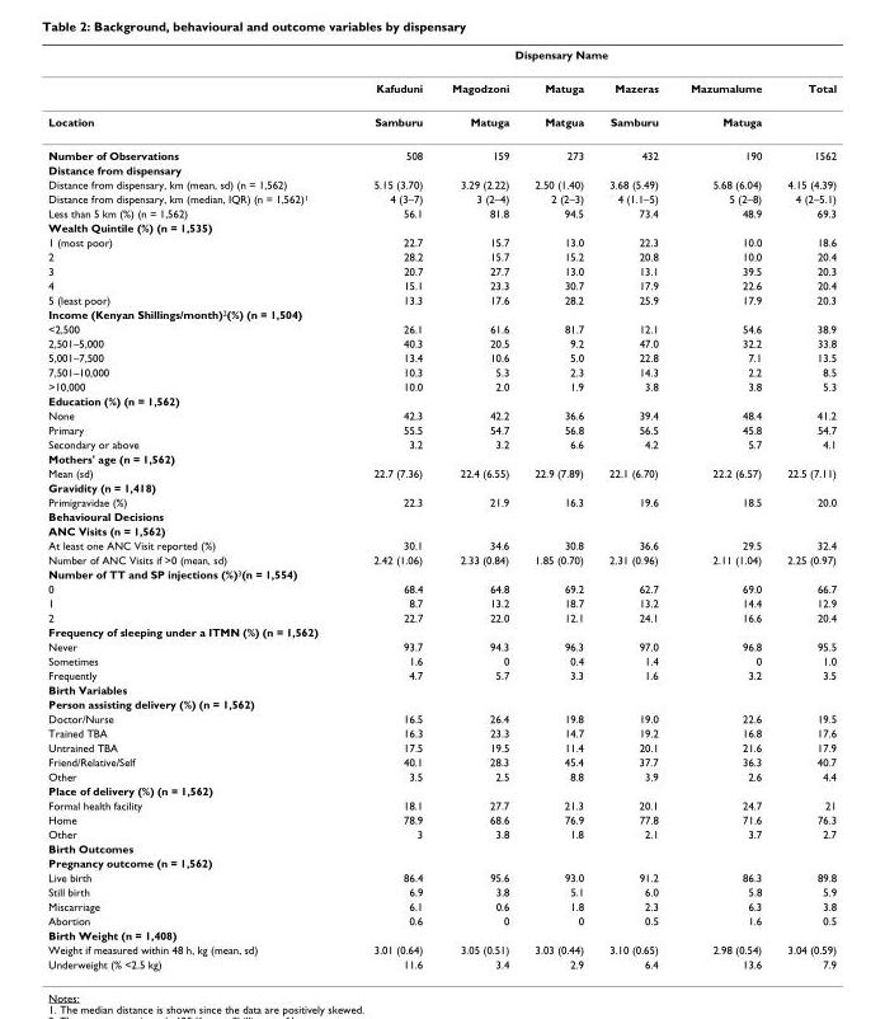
<table><thead><tr><td rowspan="2"></td><td colspan="5">Dispensary Name</td><td rowspan="2">Total</td></tr><tr><td>Kafuduni</td><td>Magodzoni</td><td>Matuga</td><td>Mazeras</td><td>Mazumalume</td></tr></thead><tbody><tr><td>Location</td><td>Samburu</td><td>Matuga</td><td>Matgua</td><td>Samburu</td><td>Matuga</td><td></td></tr><tr><td>Number of Observations</td><td>508</td><td>159</td><td>273</td><td>432</td><td>190</td><td>1562</td></tr><tr><td colspan="7">Distance from dispensary</td></tr><tr><td>Distance from dispensary, km (mean, sd) (n = 1,562)</td><td>5.15 (3.70)</td><td>3.29 (2.22)</td><td>2.50 (1.40)</td><td>3.68 (5.49)</td><td>5.68 (6.04)</td><td>4.15 (4.39)</td></tr><tr><td>Distance from dispensary, km (median, IQR) (n = 1,562)<sup>1</sup></td><td>4 (3–7)</td><td>3 (2–4)</td><td>2 (2–3)</td><td>4 (1.1–5)</td><td>5 (2–8)</td><td>4 (2–5.1)</td></tr><tr><td>Less than 5 km (%) (n = 1,562)</td><td>56.1</td><td>81.8</td><td>94.5</td><td>73.4</td><td>48.9</td><td>69.3</td></tr><tr><td colspan="7">Wealth Quintile (%) (n = 1,535)</td></tr><tr><td>1 (most poor)</td><td>22.7</td><td>15.7</td><td>13.0</td><td>22.3</td><td>10.0</td><td>18.6</td></tr><tr><td>2</td><td>28.2</td><td>15.7</td><td>15.2</td><td>20.8</td><td>10.0</td><td>20.4</td></tr><tr><td>3</td><td>20.7</td><td>27.7</td><td>13.0</td><td>13.1</td><td>39.5</td><td>20.3</td></tr><tr><td>4</td><td>15.1</td><td>23.3</td><td>30.7</td><td>17.9</td><td>22.6</td><td>20.4</td></tr><tr><td>5 (least poor)</td><td>13.3</td><td>17.6</td><td>28.2</td><td>25.9</td><td>17.9</td><td>20.3</td></tr><tr><td colspan="7">Income (Kenyan Shillings/month)<sup>2</sup>(%) (n = 1,504)</td></tr><tr><td>&lt;2,500</td><td>26.1</td><td>61.6</td><td>81.7</td><td>12.1</td><td>54.6</td><td>38.9</td></tr><tr><td>2,501–5,000</td><td>40.3</td><td>20.5</td><td>9.2</td><td>47.0</td><td>32.2</td><td>33.8</td></tr><tr><td>5,001–7,500</td><td>13.4</td><td>10.6</td><td>5.0</td><td>22.8</td><td>7.1</td><td>13.5</td></tr><tr><td>7,501–10,000</td><td>10.3</td><td>5.3</td><td>2.3</td><td>14.3</td><td>2.2</td><td>8.5</td></tr><tr><td>&gt;10,000</td><td>10.0</td><td>2.0</td><td>1.9</td><td>3.8</td><td>3.8</td><td>5.3</td></tr><tr><td colspan="7">Education (%) (n = 1,562)</td></tr><tr><td>None</td><td>42.3</td><td>42.2</td><td>36.6</td><td>39.4</td><td>48.4</td><td>41.2</td></tr><tr><td>Primary</td><td>55.5</td><td>54.7</td><td>56.8</td><td>56.5</td><td>45.8</td><td>54.7</td></tr><tr><td>Secondary or above</td><td>3.2</td><td>3.2</td><td>6.6</td><td>4.2</td><td>5.7</td><td>4.1</td></tr><tr><td colspan="7">Mothers&#x27; age (n = 1,562)</td></tr><tr><td>Mean (sd)</td><td>22.7 (7.36)</td><td>22.4 (6.55)</td><td>22.9 (7.89)</td><td>22.1 (6.70)</td><td>22.2 (6.57)</td><td>22.5 (7.11)</td></tr><tr><td colspan="7">Gravidity (n = 1,418)</td></tr><tr><td>Primigravidae (%)</td><td>22.3</td><td>21.9</td><td>16.3</td><td>19.6</td><td>18.5</td><td>20.0</td></tr><tr><td colspan="7">Behavioural Decisions</td></tr><tr><td colspan="7">ANC Visits (n = 1,562)</td></tr><tr><td>At least one ANC Visit reported (%)</td><td>30.1</td><td>34.6</td><td>30.8</td><td>36.6</td><td>29.5</td><td>32.4</td></tr><tr><td>Number of ANC Visits if &gt;0 (mean, sd)</td><td>2.42 (1.06)</td><td>2.33 (0.84)</td><td>1.85 (0.70)</td><td>2.31 (0.96)</td><td>2.11 (1.04)</td><td>2.25 (0.97)</td></tr><tr><td colspan="7">Number of TT and SP injections (%)<sup>3</sup>(n = 1,554)</td></tr><tr><td>0</td><td>68.4</td><td>64.8</td><td>69.2</td><td>62.7</td><td>69.0</td><td>66.7</td></tr><tr><td>1</td><td>8.7</td><td>13.2</td><td>18.7</td><td>13.2</td><td>14.4</td><td>12.9</td></tr><tr><td>2</td><td>22.7</td><td>22.0</td><td>12.1</td><td>24.1</td><td>16.6</td><td>20.4</td></tr><tr><td colspan="7">Frequency of sleeping under a ITMN (%) (n = 1,562)</td></tr><tr><td>Never</td><td>93.7</td><td>94.3</td><td>96.3</td><td>97.0</td><td>96.8</td><td>95.5</td></tr><tr><td>Sometimes</td><td>1.6</td><td>0</td><td>0.4</td><td>1.4</td><td>0</td><td>1.0</td></tr><tr><td>Frequently</td><td>4.7</td><td>5.7</td><td>3.3</td><td>1.6</td><td>3.2</td><td>3.5</td></tr><tr><td colspan="7">Birth Variables</td></tr><tr><td colspan="7">Person assisting delivery (%) (n = 1,562)</td></tr><tr><td>Doctor/Nurse</td><td>16.5</td><td>26.4</td><td>19.8</td><td>19.0</td><td>22.6</td><td>19.5</td></tr><tr><td>Trained TBA</td><td>16.3</td><td>23.3</td><td>14.7</td><td>19.2</td><td>16.8</td><td>17.6</td></tr><tr><td>Untrained TBA</td><td>17.5</td><td>19.5</td><td>11.4</td><td>20.1</td><td>21.6</td><td>17.9</td></tr><tr><td>Friend/Relative/Self</td><td>40.1</td><td>28.3</td><td>45.4</td><td>37.7</td><td>36.3</td><td>40.7</td></tr><tr><td>Other</td><td>3.5</td><td>2.5</td><td>8.8</td><td>3.9</td><td>2.6</td><td>4.4</td></tr><tr><td colspan="7">Place of delivery (%) (n = 1,562)</td></tr><tr><td>Formal health facility</td><td>18.1</td><td>27.7</td><td>21.3</td><td>20.1</td><td>24.7</td><td>21</td></tr><tr><td>Home</td><td>78.9</td><td>68.6</td><td>76.9</td><td>77.8</td><td>71.6</td><td>76.3</td></tr><tr><td>Other</td><td>3</td><td>3.8</td><td>1.8</td><td>2.1</td><td>3.7</td><td>2.7</td></tr><tr><td colspan="7">Birth Outcomes</td></tr><tr><td colspan="7">Pregnancy outcome (n = 1,562)</td></tr><tr><td>Live birth</td><td>86.4</td><td>95.6</td><td>93.0</td><td>91.2</td><td>86.3</td><td>89.8</td></tr><tr><td>Still birth</td><td>6.9</td><td>3.8</td><td>5.1</td><td>6.0</td><td>5.8</td><td>5.9</td></tr><tr><td>Miscarriage</td><td>6.1</td><td>0.6</td><td>1.8</td><td>2.3</td><td>6.3</td><td>3.8</td></tr><tr><td>Abortion</td><td>0.6</td><td>0</td><td>0</td><td>0.5</td><td>1.6</td><td>0.5</td></tr><tr><td colspan="7">Birth Weight (n = 1,408)</td></tr><tr><td>Weight if measured within 48 h, kg (mean, sd)</td><td>3.01 (0.64)</td><td>3.05 (0.51)</td><td>3.03 (0.44)</td><td>3.10 (0.65)</td><td>2.98 (0.54)</td><td>3.04 (0.59)</td></tr><tr><td>Underweight (% &lt;2.5 kg)</td><td>11.6</td><td>3.4</td><td>2.9</td><td>6.4</td><td>13.6</td><td>7.9</td></tr></tbody></table>